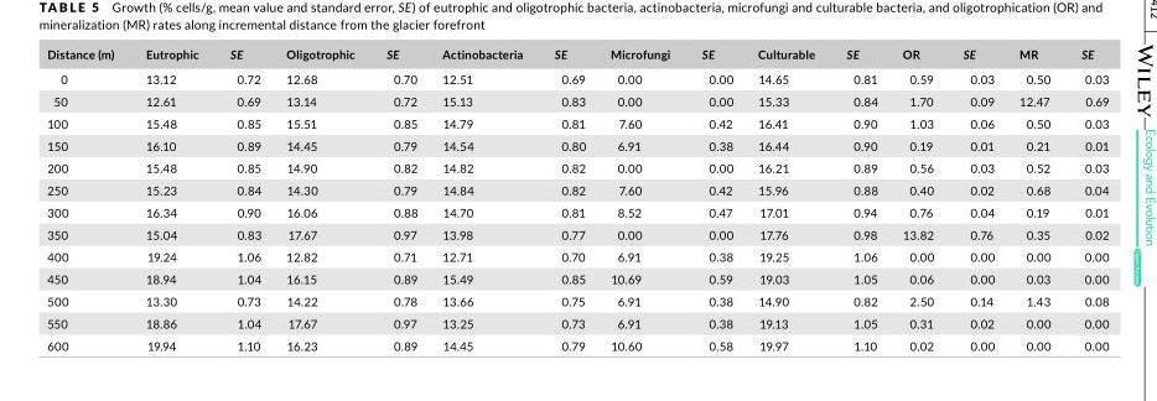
<table><thead><tr><td>Distance (m)</td><td>Eutrophic</td><td>SE</td><td>Oligotrophic</td><td>SE</td><td>Actinobacteria</td><td>SE</td><td>Microfungi</td><td>SE</td><td>Culturable</td><td>SE</td><td>OR</td><td>SE</td><td>MR</td><td>SE</td></tr></thead><tbody><tr><td>0</td><td>13.12</td><td>0.72</td><td>12.68</td><td>0.70</td><td>12.51</td><td>0.69</td><td>0.00</td><td>0.00</td><td>14.65</td><td>0.81</td><td>0.59</td><td>0.03</td><td>0.50</td><td>0.03</td></tr><tr><td>50</td><td>12.61</td><td>0.69</td><td>13.14</td><td>0.72</td><td>15.13</td><td>0.83</td><td>0.00</td><td>0.00</td><td>15.33</td><td>0.84</td><td>1.70</td><td>0.09</td><td>12.47</td><td>0.69</td></tr><tr><td>100</td><td>15.48</td><td>0.85</td><td>15.51</td><td>0.85</td><td>14.79</td><td>0.81</td><td>7.60</td><td>0.42</td><td>16.41</td><td>0.90</td><td>1.03</td><td>0.06</td><td>0.50</td><td>0.03</td></tr><tr><td>150</td><td>16.10</td><td>0.89</td><td>14.45</td><td>0.79</td><td>14.54</td><td>0.80</td><td>6.91</td><td>0.38</td><td>16.44</td><td>0.90</td><td>0.19</td><td>0.01</td><td>0.21</td><td>0.01</td></tr><tr><td>200</td><td>15.48</td><td>0.85</td><td>14.90</td><td>0.82</td><td>14.82</td><td>0.82</td><td>0.00</td><td>0.00</td><td>16.21</td><td>0.89</td><td>0.56</td><td>0.03</td><td>0.52</td><td>0.03</td></tr><tr><td>250</td><td>15.23</td><td>0.84</td><td>14.30</td><td>0.79</td><td>14.84</td><td>0.82</td><td>7.60</td><td>0.42</td><td>15.96</td><td>0.88</td><td>0.40</td><td>0.02</td><td>0.68</td><td>0.04</td></tr><tr><td>300</td><td>16.34</td><td>0.90</td><td>16.06</td><td>0.88</td><td>14.70</td><td>0.81</td><td>8.52</td><td>0.47</td><td>17.01</td><td>0.94</td><td>0.76</td><td>0.04</td><td>0.19</td><td>0.01</td></tr><tr><td>350</td><td>15.04</td><td>0.83</td><td>17.67</td><td>0.97</td><td>13.98</td><td>0.77</td><td>0.00</td><td>0.00</td><td>17.76</td><td>0.98</td><td>13.82</td><td>0.76</td><td>0.35</td><td>0.02</td></tr><tr><td>400</td><td>19.24</td><td>1.06</td><td>12.82</td><td>0.71</td><td>12.71</td><td>0.70</td><td>6.91</td><td>0.38</td><td>19.25</td><td>1.06</td><td>0.00</td><td>0.00</td><td>0.00</td><td>0.00</td></tr><tr><td>450</td><td>18.94</td><td>1.04</td><td>16.15</td><td>0.89</td><td>15.49</td><td>0.85</td><td>10.69</td><td>0.59</td><td>19.03</td><td>1.05</td><td>0.06</td><td>0.00</td><td>0.03</td><td>0.00</td></tr><tr><td>500</td><td>13.30</td><td>0.73</td><td>14.22</td><td>0.78</td><td>13.66</td><td>0.75</td><td>6.91</td><td>0.38</td><td>14.90</td><td>0.82</td><td>2.50</td><td>0.14</td><td>1.43</td><td>0.08</td></tr><tr><td>550</td><td>18.86</td><td>1.04</td><td>17.67</td><td>0.97</td><td>13.25</td><td>0.73</td><td>6.91</td><td>0.38</td><td>19.13</td><td>1.05</td><td>0.31</td><td>0.02</td><td>0.00</td><td>0.00</td></tr><tr><td>600</td><td>19.94</td><td>1.10</td><td>16.23</td><td>0.89</td><td>14.45</td><td>0.79</td><td>10.60</td><td>0.58</td><td>19.97</td><td>1.10</td><td>0.02</td><td>0.00</td><td>0.00</td><td>0.00</td></tr></tbody></table>